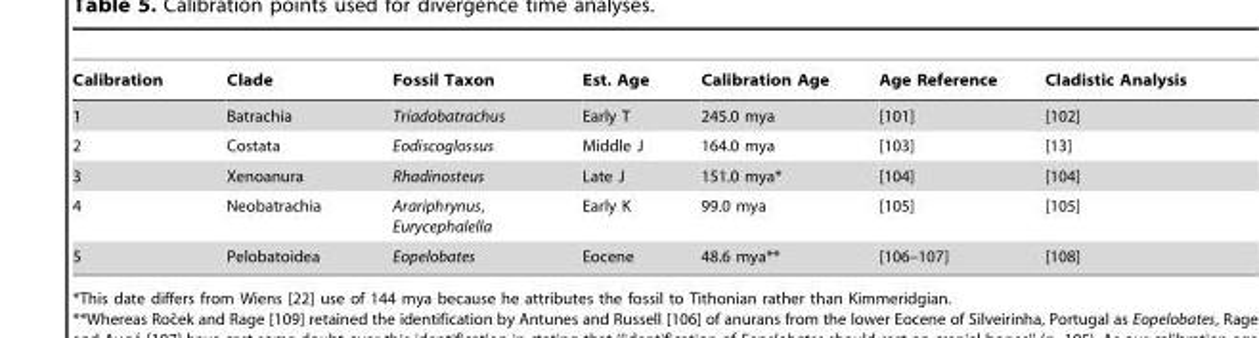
<table><thead><tr><td>Calibration</td><td>Clade</td><td>Fossil Taxon</td><td>Est. Age</td><td>Calibration Age</td><td>Age Reference</td><td>Cladistic Analysis</td></tr></thead><tbody><tr><td>1</td><td>Batrachia</td><td>Triadobatrachus</td><td>Early T</td><td>245.0 mya</td><td>[101]</td><td>[102]</td></tr><tr><td>2</td><td>Costata</td><td>Eodiscoglossus</td><td>Middle J</td><td>164.0 mya</td><td>[103]</td><td>[13]</td></tr><tr><td>3</td><td>Xenoanura</td><td>Rhadinosteus</td><td>Late J</td><td>151.0 mya*</td><td>[104]</td><td>[104]</td></tr><tr><td>4</td><td>Neobatrachia</td><td>Arariphrynus, Eurycephalella</td><td>Early K</td><td>99.0 mya</td><td>[105]</td><td>[105]</td></tr><tr><td>5</td><td>Pelobatoidea</td><td>Eopelobates</td><td>Eocene</td><td>48.6 mya**</td><td>[106–107]</td><td>[108]</td></tr></tbody></table>